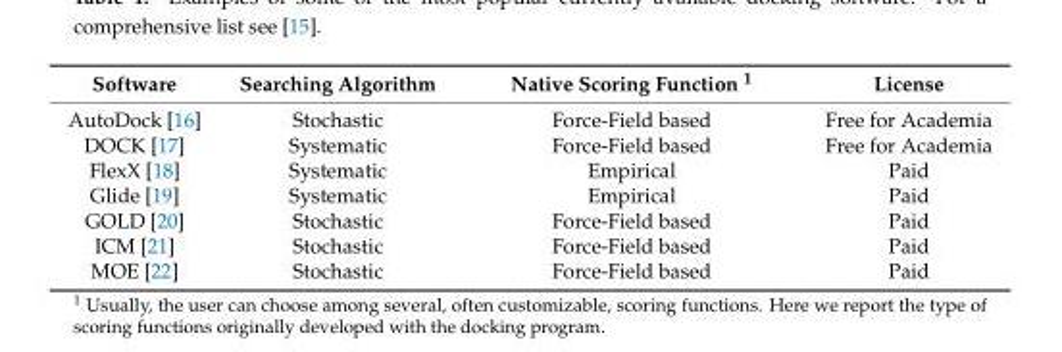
<table><thead><tr><td>Software</td><td>Searching Algorithm</td><td>Native Scoring Function <sup>1</sup></td><td>License</td></tr></thead><tbody><tr><td>AutoDock [16]</td><td>Stochastic</td><td>Force-Field based</td><td>Free for Academia</td></tr><tr><td>DOCK [17]</td><td>Systematic</td><td>Force-Field based</td><td>Free for Academia</td></tr><tr><td>FlexX [18]</td><td>Systematic</td><td>Empirical</td><td>Paid</td></tr><tr><td>Glide [19]</td><td>Systematic</td><td>Empirical</td><td>Paid</td></tr><tr><td>GOLD [20]</td><td>Stochastic</td><td>Force-Field based</td><td>Paid</td></tr><tr><td>ICM [21]</td><td>Stochastic</td><td>Force-Field based</td><td>Paid</td></tr><tr><td>MOE [22]</td><td>Stochastic</td><td>Force-Field based</td><td>Paid</td></tr></tbody></table>